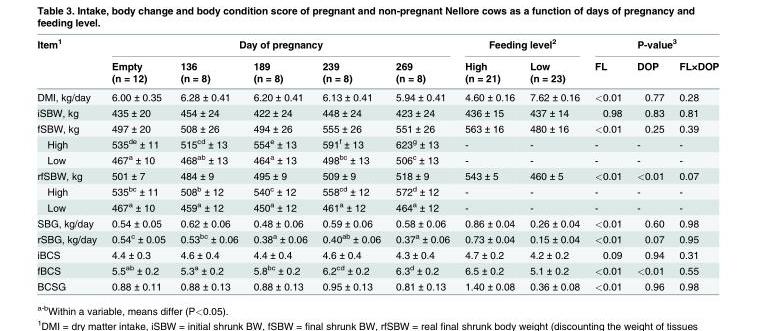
<table><thead><tr><td rowspan="3">Item<sup>1</sup></td><td colspan="5">Day of pregnancy</td><td colspan="2">Feeding level<sup>2</sup></td><td colspan="3">P-value<sup>3</sup></td></tr><tr><td rowspan="2">Empty (n = 12)</td><td rowspan="2">136 (n = 8)</td><td rowspan="2">189 (n = 8)</td><td rowspan="2">239 (n = 8)</td><td rowspan="2">269 (n = 8)</td><td rowspan="2">High (n = 21)</td><td rowspan="2">Low (n = 23)</td><td rowspan="2">FL</td><td rowspan="2">DOP</td><td rowspan="2">FL×DOP</td></tr><tr></tr></thead><tbody><tr><td>DMI, kg/day</td><td>6.00 ± 0.35</td><td>6.28 ± 0.41</td><td>6.20 ± 0.41</td><td>6.13 ± 0.41</td><td>5.94 ± 0.41</td><td>4.60 ± 0.16</td><td>7.62 ± 0.16</td><td>&lt;0.01</td><td>0.77</td><td>0.28</td></tr><tr><td>iSBW, kg</td><td>435 ± 20</td><td>454 ± 24</td><td>422 ± 24</td><td>448 ± 24</td><td>423 ± 24</td><td>436 ± 15</td><td>437 ± 14</td><td>0.98</td><td>0.83</td><td>0.81</td></tr><tr><td>fSBW, kg</td><td>497 ± 20</td><td>508 ± 26</td><td>494 ± 26</td><td>555 ± 26</td><td>551 ± 26</td><td>563 ± 16</td><td>480 ± 16</td><td>&lt;0.01</td><td>0.25</td><td>0.39</td></tr><tr><td>High</td><td>535<sup>de</sup> ± 11</td><td>515<sup>cd</sup> ± 13</td><td>554<sup>e</sup> ± 13</td><td>591<sup>f</sup> ± 13</td><td>623<sup>g</sup> ± 13</td><td>-</td><td>-</td><td>-</td><td>-</td><td>-</td></tr><tr><td>Low</td><td>467<sup>a</sup> ± 10</td><td>468<sup>ab</sup> ± 13</td><td>464<sup>a</sup> ± 13</td><td>498<sup>bc</sup> ± 13</td><td>506<sup>c</sup> ± 13</td><td>-</td><td>-</td><td>-</td><td>-</td><td>-</td></tr><tr><td>rfSBW, kg</td><td>501 ± 7</td><td>484 ± 9</td><td>495 ± 9</td><td>509 ± 9</td><td>518 ± 9</td><td>543 ± 5</td><td>460 ± 5</td><td>&lt;0.01</td><td>&lt;0.01</td><td>0.07</td></tr><tr><td>High</td><td>535<sup>bc</sup> ± 11</td><td>508<sup>b</sup> ± 12</td><td>540<sup>c</sup> ± 12</td><td>558<sup>cd</sup> ± 12</td><td>572<sup>d</sup> ± 12</td><td>-</td><td>-</td><td>-</td><td>-</td><td>-</td></tr><tr><td>Low</td><td>467<sup>a</sup> ± 10</td><td>459<sup>a</sup> ± 12</td><td>450<sup>a</sup> ± 12</td><td>461<sup>a</sup> ± 12</td><td>464<sup>a</sup> ± 12</td><td>-</td><td>-</td><td>-</td><td>-</td><td>-</td></tr><tr><td>SBG, kg/day</td><td>0.54 ± 0.05</td><td>0.62 ± 0.06</td><td>0.48 ± 0.06</td><td>0.59 ± 0.06</td><td>0.58 ± 0.06</td><td>0.86 ± 0.04</td><td>0.26 ± 0.04</td><td>&lt;0.01</td><td>0.60</td><td>0.98</td></tr><tr><td>rSBG, kg/day</td><td>0.54<sup>c</sup> ± 0.05</td><td>0.53<sup>bc</sup> ± 0.06</td><td>0.38<sup>a</sup> ± 0.06</td><td>0.40<sup>ab</sup> ± 0.06</td><td>0.37<sup>a</sup> ± 0.06</td><td>0.73 ± 0.04</td><td>0.15 ± 0.04</td><td>&lt;0.01</td><td>0.07</td><td>0.95</td></tr><tr><td>iBCS</td><td>4.4 ± 0.3</td><td>4.6 ± 0.4</td><td>4.4 ± 0.4</td><td>4.6 ± 0.4</td><td>4.3 ± 0.4</td><td>4.7 ± 0.2</td><td>4.2 ± 0.2</td><td>0.09</td><td>0.94</td><td>0.31</td></tr><tr><td>fBCS</td><td>5.5<sup>ab</sup> ± 0.2</td><td>5.3<sup>a</sup> ± 0.2</td><td>5.8<sup>bc</sup> ± 0.2</td><td>6.2<sup>cd</sup> ± 0.2</td><td>6.3<sup>d</sup> ± 0.2</td><td>6.5 ± 0.2</td><td>5.1 ± 0.2</td><td>&lt;0.01</td><td>&lt;0.01</td><td>0.55</td></tr><tr><td>BCSG</td><td>0.88 ± 0.11</td><td>0.88 ± 0.13</td><td>0.88 ± 0.13</td><td>0.95 ± 0.13</td><td>0.81 ± 0.13</td><td>1.40 ± 0.08</td><td>0.36 ± 0.08</td><td>&lt;0.01</td><td>0.96</td><td>0.98</td></tr></tbody></table>